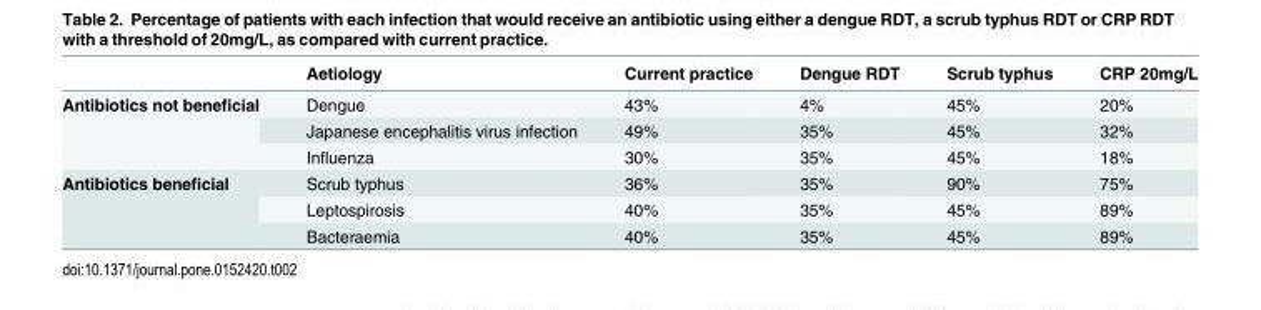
<table><thead><tr><td></td><td>Aetiology</td><td>Current practice</td><td>Dengue RDT</td><td>Scrub typhus</td><td>CRP 20mg/L</td></tr></thead><tbody><tr><td rowspan="3">Antibiotics not beneficial</td><td>Dengue</td><td>43%</td><td>4%</td><td>45%</td><td>20%</td></tr><tr><td>Japanese encephalitis virus infection</td><td>49%</td><td>35%</td><td>45%</td><td>32%</td></tr><tr><td>Influenza</td><td>30%</td><td>35%</td><td>45%</td><td>18%</td></tr><tr><td rowspan="3">Antibiotics beneficial</td><td>Scrub typhus</td><td>36%</td><td>35%</td><td>90%</td><td>75%</td></tr><tr><td>Leptospirosis</td><td>40%</td><td>35%</td><td>45%</td><td>89%</td></tr><tr><td>Bacteraemia</td><td>40%</td><td>35%</td><td>45%</td><td>89%</td></tr></tbody></table>